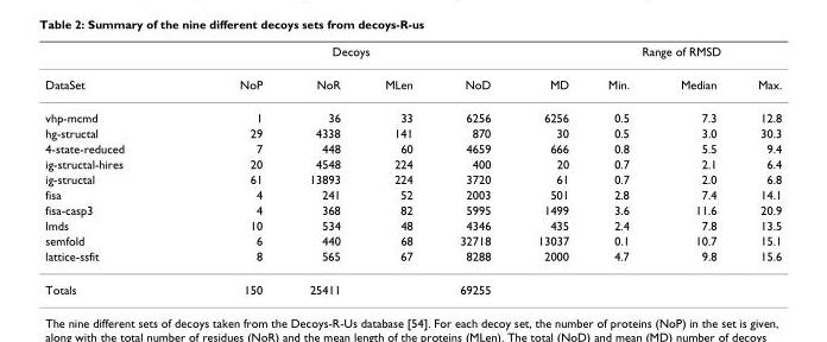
<table><thead><tr><td rowspan="2">DataSet</td><td colspan="4">Decoys</td><td rowspan="2">MD</td><td colspan="3">Range of RMSD</td></tr><tr><td>NoP</td><td>NoR</td><td>MLen</td><td>NoD</td><td>Min.</td><td>Median</td><td>Max.</td></tr></thead><tbody><tr><td>vhp-mcmd</td><td>1</td><td>36</td><td>33</td><td>6256</td><td>6256</td><td>0.5</td><td>7.3</td><td>12.8</td></tr><tr><td>hg-structal</td><td>29</td><td>4338</td><td>141</td><td>870</td><td>30</td><td>0.5</td><td>3.0</td><td>30.3</td></tr><tr><td>4-state-reduced</td><td>7</td><td>448</td><td>60</td><td>4659</td><td>666</td><td>0.8</td><td>5.5</td><td>9.4</td></tr><tr><td>ig-structal-hires</td><td>20</td><td>4548</td><td>224</td><td>400</td><td>20</td><td>0.7</td><td>2.1</td><td>6.4</td></tr><tr><td>ig-structal</td><td>61</td><td>13893</td><td>224</td><td>3720</td><td>61</td><td>0.7</td><td>2.0</td><td>6.8</td></tr><tr><td>fisa</td><td>4</td><td>241</td><td>52</td><td>2003</td><td>501</td><td>2.8</td><td>7.4</td><td>14.1</td></tr><tr><td>fisa-casp3</td><td>4</td><td>368</td><td>82</td><td>5995</td><td>1499</td><td>3.6</td><td>11.6</td><td>20.9</td></tr><tr><td>lmds</td><td>10</td><td>534</td><td>48</td><td>4346</td><td>435</td><td>2.4</td><td>7.8</td><td>13.5</td></tr><tr><td>semfold</td><td>6</td><td>440</td><td>68</td><td>32718</td><td>13037</td><td>0.1</td><td>10.7</td><td>15.1</td></tr><tr><td>lattice-ssfit</td><td>8</td><td>565</td><td>67</td><td>8288</td><td>2000</td><td>4.7</td><td>9.8</td><td>15.6</td></tr><tr><td>Totals</td><td>150</td><td>25411</td><td></td><td>69255</td><td></td><td></td><td></td><td></td></tr></tbody></table>